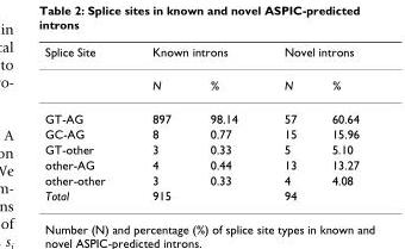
<table><thead><tr><td rowspan="2">Splice Site</td><td colspan="2">Known introns</td><td colspan="2">Novel introns</td></tr><tr><td>N</td><td>%</td><td>N</td><td>%</td></tr></thead><tbody><tr><td>GT-AG</td><td>897</td><td>98.14</td><td>57</td><td>60.64</td></tr><tr><td>GC-AG</td><td>8</td><td>0.77</td><td>15</td><td>15.96</td></tr><tr><td>GT-other</td><td>3</td><td>0.33</td><td>5</td><td>5.10</td></tr><tr><td>other-AG</td><td>4</td><td>0.44</td><td>13</td><td>13.27</td></tr><tr><td>other-other</td><td>3</td><td>0.33</td><td>4</td><td>4.08</td></tr><tr><td>Total</td><td>915</td><td></td><td>94</td><td></td></tr></tbody></table>